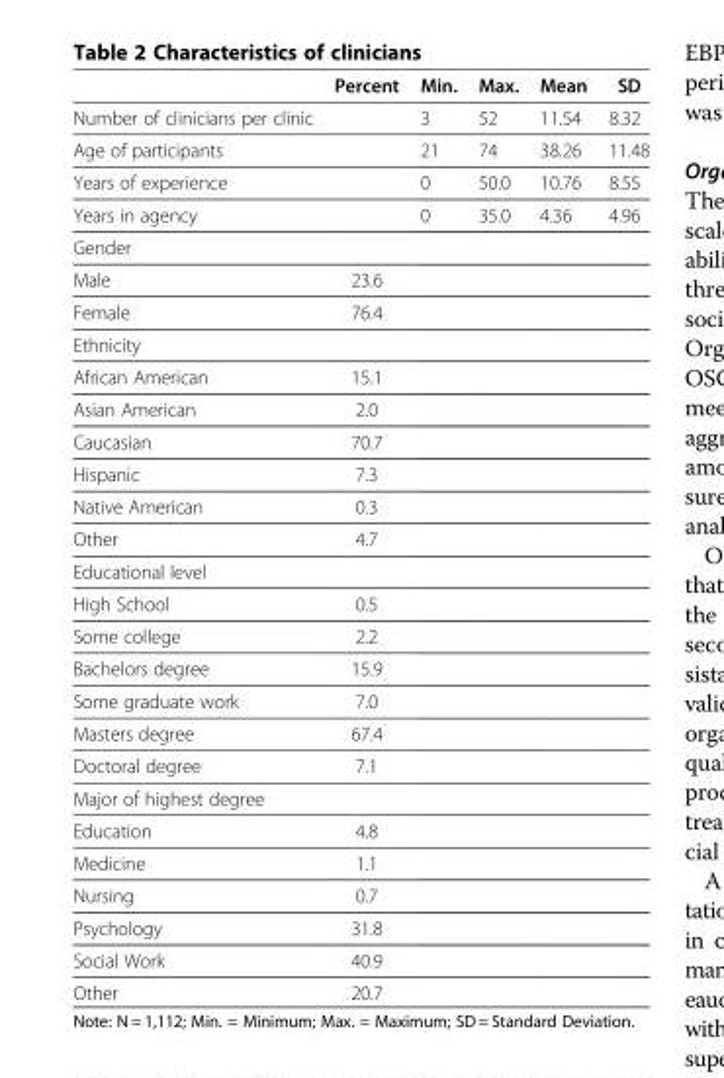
<table><thead><tr><td></td><td>Percent</td><td>Min.</td><td>Max.</td><td>Mean</td><td>SD</td></tr></thead><tbody><tr><td>Number of clinicians per clinic</td><td></td><td>3</td><td>52</td><td>11.54</td><td>8.32</td></tr><tr><td>Age of participants</td><td></td><td>21</td><td>74</td><td>38.26</td><td>11.48</td></tr><tr><td>Years of experience</td><td></td><td>0</td><td>50.0</td><td>10.76</td><td>8.55</td></tr><tr><td>Years in agency</td><td></td><td>0</td><td>35.0</td><td>4.36</td><td>4.96</td></tr><tr><td colspan="6">Gender</td></tr><tr><td>Male</td><td>23.6</td><td></td><td></td><td></td><td></td></tr><tr><td>Female</td><td>76.4</td><td></td><td></td><td></td><td></td></tr><tr><td colspan="6">Ethnicity</td></tr><tr><td>African American</td><td>15.1</td><td></td><td></td><td></td><td></td></tr><tr><td>Asian American</td><td>2.0</td><td></td><td></td><td></td><td></td></tr><tr><td>Caucasian</td><td>70.7</td><td></td><td></td><td></td><td></td></tr><tr><td>Hispanic</td><td>7.3</td><td></td><td></td><td></td><td></td></tr><tr><td>Native American</td><td>0.3</td><td></td><td></td><td></td><td></td></tr><tr><td>Other</td><td>4.7</td><td></td><td></td><td></td><td></td></tr><tr><td colspan="6">Educational level</td></tr><tr><td>High School</td><td>0.5</td><td></td><td></td><td></td><td></td></tr><tr><td>Some college</td><td>2.2</td><td></td><td></td><td></td><td></td></tr><tr><td>Bachelors degree</td><td>15.9</td><td></td><td></td><td></td><td></td></tr><tr><td>Some graduate work</td><td>7.0</td><td></td><td></td><td></td><td></td></tr><tr><td>Masters degree</td><td>67.4</td><td></td><td></td><td></td><td></td></tr><tr><td>Doctoral degree</td><td>7.1</td><td></td><td></td><td></td><td></td></tr><tr><td colspan="6">Major of highest degree</td></tr><tr><td>Education</td><td>4.8</td><td></td><td></td><td></td><td></td></tr><tr><td>Medicine</td><td>1.1</td><td></td><td></td><td></td><td></td></tr><tr><td>Nursing</td><td>0.7</td><td></td><td></td><td></td><td></td></tr><tr><td>Psychology</td><td>31.8</td><td></td><td></td><td></td><td></td></tr><tr><td>Social Work</td><td>40.9</td><td></td><td></td><td></td><td></td></tr><tr><td>Other</td><td>20.7</td><td></td><td></td><td></td><td></td></tr></tbody></table>